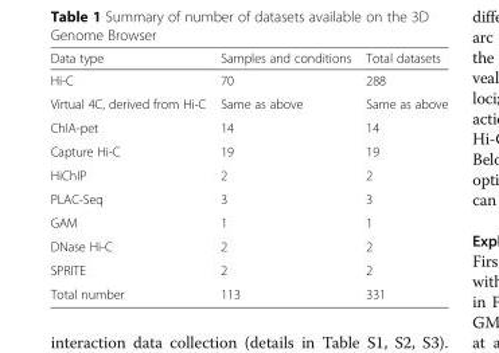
<table><thead><tr><td>Data type</td><td>Samples and conditions</td><td>Total datasets</td></tr></thead><tbody><tr><td>Hi-C</td><td>70</td><td>288</td></tr><tr><td>Virtual 4C, derived from Hi-C</td><td>Same as above</td><td>Same as above</td></tr><tr><td>ChIA-pet</td><td>14</td><td>14</td></tr><tr><td>Capture Hi-C</td><td>19</td><td>19</td></tr><tr><td>HiChIP</td><td>2</td><td>2</td></tr><tr><td>PLAC-Seq</td><td>3</td><td>3</td></tr><tr><td>GAM</td><td>1</td><td>1</td></tr><tr><td>DNase Hi-C</td><td>2</td><td>2</td></tr><tr><td>SPRITE</td><td>2</td><td>2</td></tr><tr><td>Total number</td><td>113</td><td>331</td></tr></tbody></table>